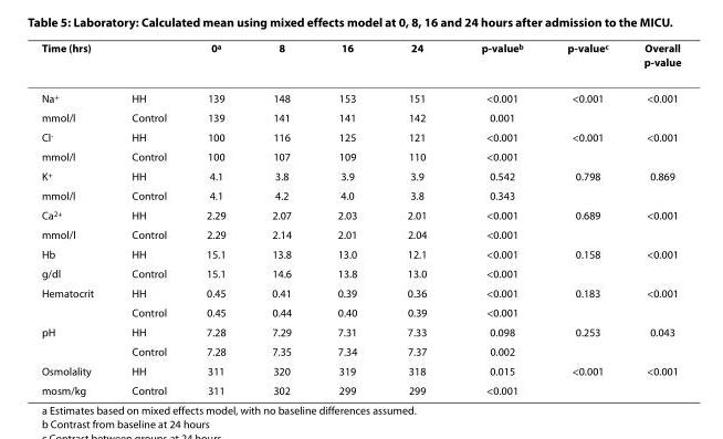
<table><thead><tr><td>Time (hrs)</td><td></td><td>0<sup>a</sup></td><td>8</td><td>16</td><td>24</td><td>p-value<sup>b</sup></td><td>p-value<sup>c</sup></td><td>Overall p-value</td></tr></thead><tbody><tr><td>Na<sup>+</sup></td><td>HH</td><td>139</td><td>148</td><td>153</td><td>151</td><td>&lt;0.001</td><td>&lt;0.001</td><td>&lt;0.001</td></tr><tr><td>mmol/l</td><td>Control</td><td>139</td><td>141</td><td>141</td><td>142</td><td>0.001</td><td></td><td></td></tr><tr><td>Cl<sup>-</sup></td><td>HH</td><td>100</td><td>116</td><td>125</td><td>121</td><td>&lt;0.001</td><td>&lt;0.001</td><td>&lt;0.001</td></tr><tr><td>mmol/l</td><td>Control</td><td>100</td><td>107</td><td>109</td><td>110</td><td>&lt;0.001</td><td></td><td></td></tr><tr><td>K<sup>+</sup></td><td>HH</td><td>4.1</td><td>3.8</td><td>3.9</td><td>3.9</td><td>0.542</td><td>0.798</td><td>0.869</td></tr><tr><td>mmol/l</td><td>Control</td><td>4.1</td><td>4.2</td><td>4.0</td><td>3.8</td><td>0.343</td><td></td><td></td></tr><tr><td>Ca<sup>2+</sup></td><td>HH</td><td>2.29</td><td>2.07</td><td>2.03</td><td>2.01</td><td>&lt;0.001</td><td>0.689</td><td>&lt;0.001</td></tr><tr><td>mmol/l</td><td>Control</td><td>2.29</td><td>2.14</td><td>2.01</td><td>2.04</td><td>&lt;0.001</td><td></td><td></td></tr><tr><td>Hb</td><td>HH</td><td>15.1</td><td>13.8</td><td>13.0</td><td>12.1</td><td>&lt;0.001</td><td>0.158</td><td>&lt;0.001</td></tr><tr><td>g/dl</td><td>Control</td><td>15.1</td><td>14.6</td><td>13.8</td><td>13.0</td><td>&lt;0.001</td><td></td><td></td></tr><tr><td rowspan="2">Hematocrit</td><td>HH</td><td>0.45</td><td>0.41</td><td>0.39</td><td>0.36</td><td>&lt;0.001</td><td>0.183</td><td>&lt;0.001</td></tr><tr><td>Control</td><td>0.45</td><td>0.44</td><td>0.40</td><td>0.39</td><td>&lt;0.001</td><td></td><td></td></tr><tr><td rowspan="2">pH</td><td>HH</td><td>7.28</td><td>7.29</td><td>7.31</td><td>7.33</td><td>0.098</td><td>0.253</td><td>0.043</td></tr><tr><td>Control</td><td>7.28</td><td>7.35</td><td>7.34</td><td>7.37</td><td>0.002</td><td></td><td></td></tr><tr><td>Osmolality</td><td>HH</td><td>311</td><td>320</td><td>319</td><td>318</td><td>0.015</td><td>&lt;0.001</td><td>&lt;0.001</td></tr><tr><td>mosm/kg</td><td>Control</td><td>311</td><td>302</td><td>299</td><td>299</td><td>&lt;0.001</td><td></td><td></td></tr></tbody></table>